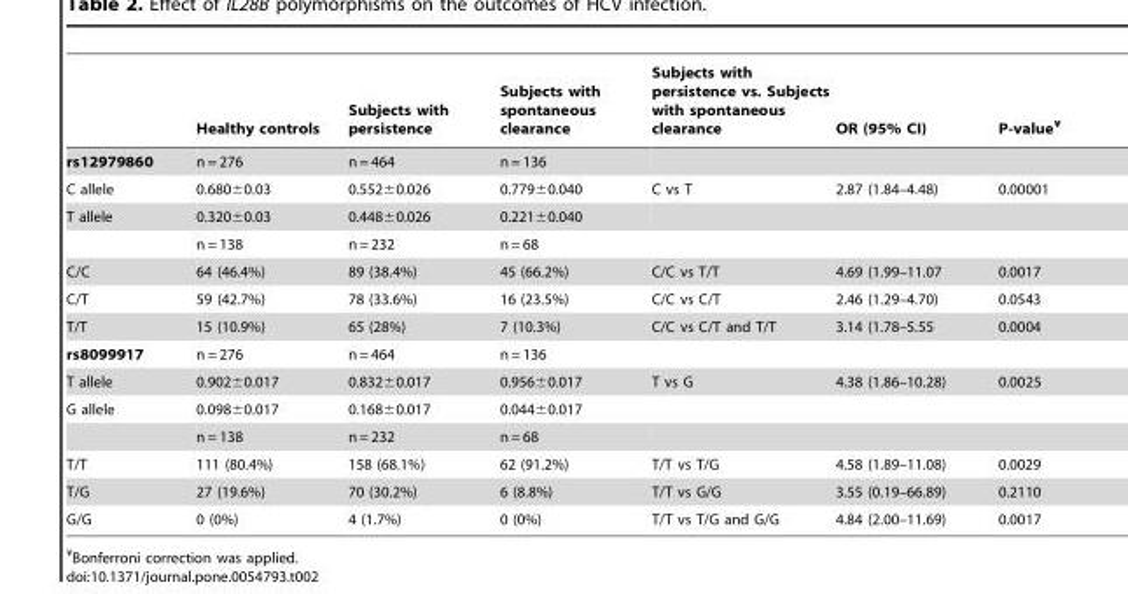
<table><thead><tr><td></td><td>Healthy controls</td><td>Subjects with persistence</td><td>Subjects with spontaneous clearance</td><td>Subjects with persistence vs. Subjects with spontaneous clearance</td><td>OR (95% CI)</td><td>P-value¥</td></tr></thead><tbody><tr><td>rs12979860</td><td>n = 276</td><td>n = 464</td><td>n = 136</td><td></td><td></td><td></td></tr><tr><td>C allele</td><td>0.680±0.03</td><td>0.552±0.026</td><td>0.779±0.040</td><td>C vs T</td><td>2.87 (1.84–4.48)</td><td>0.00001</td></tr><tr><td rowspan="2">T allele</td><td>0.320±0.03</td><td>0.448±0.026</td><td>0.221±0.040</td><td></td><td></td><td></td></tr><tr><td>n = 138</td><td>n = 232</td><td>n = 68</td><td></td><td></td><td></td></tr><tr><td>C/C</td><td>64 (46.4%)</td><td>89 (38.4%)</td><td>45 (66.2%)</td><td>C/C vs T/T</td><td>4.69 (1.99–11.07</td><td>0.0017</td></tr><tr><td>C/T</td><td>59 (42.7%)</td><td>78 (33.6%)</td><td>16 (23.5%)</td><td>C/C vs C/T</td><td>2.46 (1.29–4.70)</td><td>0.0543</td></tr><tr><td>T/T</td><td>15 (10.9%)</td><td>65 (28%)</td><td>7 (10.3%)</td><td>C/C vs C/T and T/T</td><td>3.14 (1.78–5.55</td><td>0.0004</td></tr><tr><td>rs8099917</td><td>n = 276</td><td>n = 464</td><td>n = 136</td><td></td><td></td><td></td></tr><tr><td>T allele</td><td>0.902±0.017</td><td>0.832±0.017</td><td>0.956±0.017</td><td>T vs G</td><td>4.38 (1.86–10.28)</td><td>0.0025</td></tr><tr><td rowspan="2">G allele</td><td>0.098±0.017</td><td>0.168±0.017</td><td>0.044±0.017</td><td></td><td></td><td></td></tr><tr><td>n = 138</td><td>n = 232</td><td>n = 68</td><td></td><td></td><td></td></tr><tr><td>T/T</td><td>111 (80.4%)</td><td>158 (68.1%)</td><td>62 (91.2%)</td><td>T/T vs T/G</td><td>4.58 (1.89–11.08)</td><td>0.0029</td></tr><tr><td>T/G</td><td>27 (19.6%)</td><td>70 (30.2%)</td><td>6 (8.8%)</td><td>T/T vs G/G</td><td>3.55 (0.19–66.89)</td><td>0.2110</td></tr><tr><td>G/G</td><td>0 (0%)</td><td>4 (1.7%)</td><td>0 (0%)</td><td>T/T vs T/G and G/G</td><td>4.84 (2.00–11.69)</td><td>0.0017</td></tr></tbody></table>